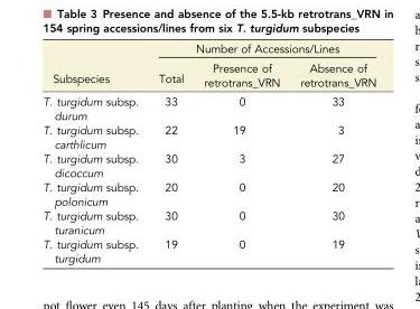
<table><thead><tr><td rowspan="2">Subspecies</td><td colspan="3">Number of Accessions/Lines</td></tr><tr><td>Total</td><td>Presence of retrotrans_VRN</td><td>Absence of retrotrans_VRN</td></tr></thead><tbody><tr><td>T. turgidum subsp. durum</td><td>33</td><td>0</td><td>33</td></tr><tr><td>T. turgidum subsp. carthlicum</td><td>22</td><td>19</td><td>3</td></tr><tr><td>T. turgidum subsp. dicoccum</td><td>30</td><td>3</td><td>27</td></tr><tr><td>T. turgidum subsp. polonicum</td><td>20</td><td>0</td><td>20</td></tr><tr><td>T. turgidum subsp. turanicum</td><td>30</td><td>0</td><td>30</td></tr><tr><td>T. turgidum subsp. turgidum</td><td>19</td><td>0</td><td>19</td></tr></tbody></table>